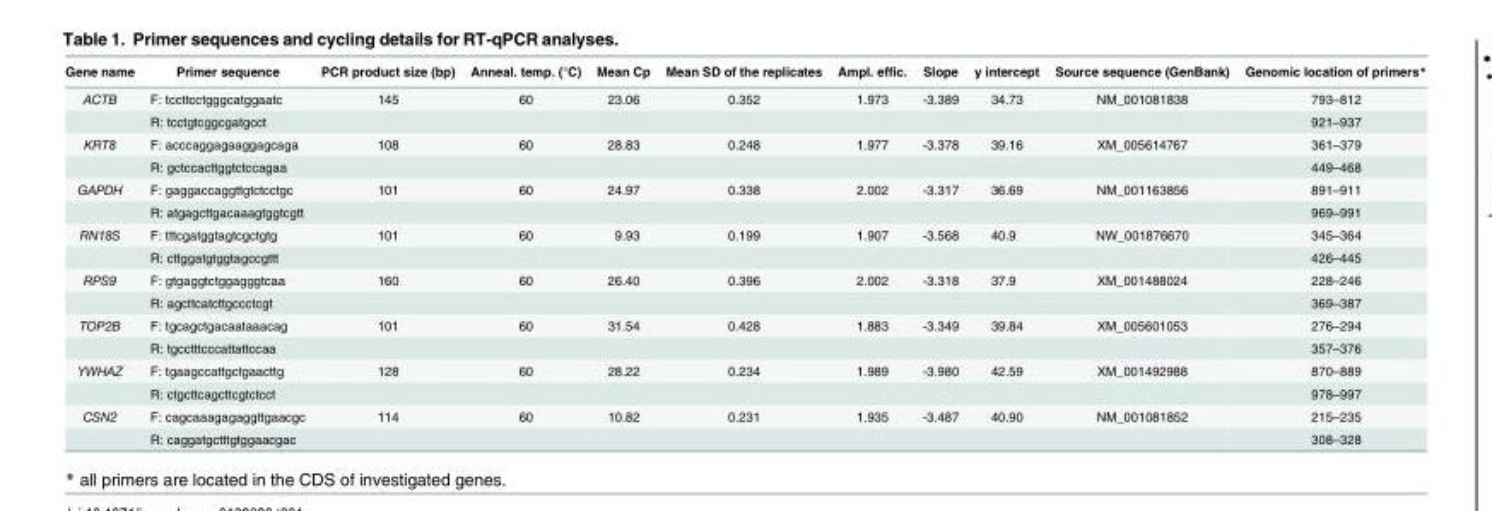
<table><thead><tr><td>Gene name</td><td>Primer sequence</td><td>PCR product size (bp)</td><td>Anneal. temp. (°C)</td><td>Mean Cp</td><td>Mean SD of the replicates</td><td>Ampl. effic.</td><td>Slope</td><td>y intercept</td><td>Source sequence (GenBank)</td><td>Genomic location of primers*</td></tr></thead><tbody><tr><td rowspan="2">ACTB</td><td>F: tccttcctgggcatggaatc</td><td>145</td><td>60</td><td>23.06</td><td>0.352</td><td>1.973</td><td>-3.389</td><td>34.73</td><td>NM_001081838</td><td>793–812</td></tr><tr><td>R: tcctgtcggcgatgcct</td><td></td><td></td><td></td><td></td><td></td><td></td><td></td><td></td><td>921–937</td></tr><tr><td rowspan="2">KRT8</td><td>F: acccaggagaaggagcaga</td><td>108</td><td>60</td><td>28.83</td><td>0.248</td><td>1.977</td><td>-3.378</td><td>39.16</td><td>XM_005614767</td><td>361–379</td></tr><tr><td>R: gctccacttggtctccagaa</td><td></td><td></td><td></td><td></td><td></td><td></td><td></td><td></td><td>449–468</td></tr><tr><td rowspan="2">GAPDH</td><td>F: gaggaccaggttgtctcctgc</td><td>101</td><td>60</td><td>24.97</td><td>0.338</td><td>2.002</td><td>-3.317</td><td>36.69</td><td>NM_001163856</td><td>891–911</td></tr><tr><td>R: atgagcttgacaaagtggtcgtt</td><td></td><td></td><td></td><td></td><td></td><td></td><td></td><td></td><td>969–991</td></tr><tr><td rowspan="2">RN18S</td><td>F: tttcgatggtagtcgctgtg</td><td>101</td><td>60</td><td>9.93</td><td>0.199</td><td>1.907</td><td>-3.568</td><td>40.9</td><td>NW_001876670</td><td>345–364</td></tr><tr><td>R: cttggatgtggtagccgttt</td><td></td><td></td><td></td><td></td><td></td><td></td><td></td><td></td><td>426–445</td></tr><tr><td rowspan="2">RPS9</td><td>F: gtgaggtctggagggtcaa</td><td>160</td><td>60</td><td>26.40</td><td>0.396</td><td>2.002</td><td>-3.318</td><td>37.9</td><td>XM_001488024</td><td>228–246</td></tr><tr><td>R: agcttcatcttgccctcgt</td><td></td><td></td><td></td><td></td><td></td><td></td><td></td><td></td><td>369–387</td></tr><tr><td rowspan="2">TOP2B</td><td>F: tgcagctgacaataaacag</td><td>101</td><td>60</td><td>31.54</td><td>0.428</td><td>1.883</td><td>-3.349</td><td>39.84</td><td>XM_005601053</td><td>276–294</td></tr><tr><td>R: tgcctttcccattattccaa</td><td></td><td></td><td></td><td></td><td></td><td></td><td></td><td></td><td>357–376</td></tr><tr><td rowspan="2">YWHAZ</td><td>F: tgaagccattgctgaacttg</td><td>128</td><td>60</td><td>28.22</td><td>0.234</td><td>1.989</td><td>-3.980</td><td>42.59</td><td>XM_001492988</td><td>870–889</td></tr><tr><td>R: ctgcttcagcttcgtctcct</td><td></td><td></td><td></td><td></td><td></td><td></td><td></td><td></td><td>978–997</td></tr><tr><td rowspan="2">CSN2</td><td>F: cagcaaagagaggttgaacgc</td><td>114</td><td>60</td><td>10.82</td><td>0.231</td><td>1.935</td><td>-3.487</td><td>40.90</td><td>NM_001081852</td><td>215–235</td></tr><tr><td>R: caggatgctttgtggaacgac</td><td></td><td></td><td></td><td></td><td></td><td></td><td></td><td></td><td>308–328</td></tr></tbody></table>